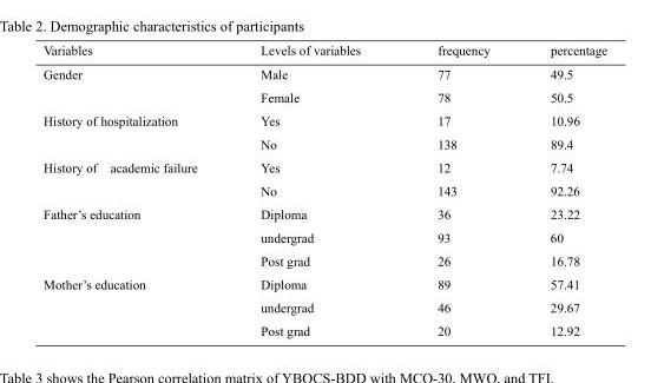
<table><thead><tr><td>Variables</td><td>Levels of variables</td><td>frequency</td><td>percentage</td></tr></thead><tbody><tr><td rowspan="2">Gender</td><td>Male</td><td>77</td><td>49.5</td></tr><tr><td>Female</td><td>78</td><td>50.5</td></tr><tr><td rowspan="2">History of hospitalization</td><td>Yes</td><td>17</td><td>10.96</td></tr><tr><td>No</td><td>138</td><td>89.4</td></tr><tr><td rowspan="2">History of academic failure</td><td>Yes</td><td>12</td><td>7.74</td></tr><tr><td>No</td><td>143</td><td>92.26</td></tr><tr><td rowspan="3">Father’s education</td><td>Diploma</td><td>36</td><td>23.22</td></tr><tr><td>undergrad</td><td>93</td><td>60</td></tr><tr><td>Post grad</td><td>26</td><td>16.78</td></tr><tr><td rowspan="3">Mother’s education</td><td>Diploma</td><td>89</td><td>57.41</td></tr><tr><td>undergrad</td><td>46</td><td>29.67</td></tr><tr><td>Post grad</td><td>20</td><td>12.92</td></tr></tbody></table>